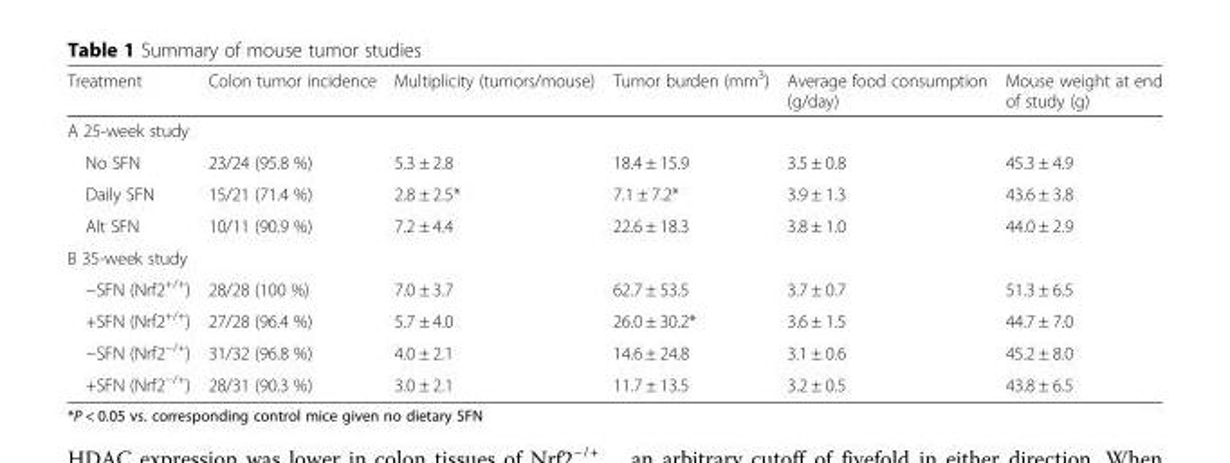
<table><thead><tr><td>Treatment</td><td>Colon tumor incidence</td><td>Multiplicity (tumors/mouse)</td><td>Tumor burden (mm<sup>3</sup>)</td><td>Average food consumption (g/day)</td><td>Mouse weight at end of study (g)</td></tr></thead><tbody><tr><td colspan="6">A 25-week study</td></tr><tr><td>No SFN</td><td>23/24 (95.8 %)</td><td>5.3 ± 2.8</td><td>18.4 ± 15.9</td><td>3.5 ± 0.8</td><td>45.3 ± 4.9</td></tr><tr><td>Daily SFN</td><td>15/21 (71.4 %)</td><td>2.8 ± 2.5*</td><td>7.1 ± 7.2*</td><td>3.9 ± 1.3</td><td>43.6 ± 3.8</td></tr><tr><td>Alt SFN</td><td>10/11 (90.9 %)</td><td>7.2 ± 4.4</td><td>22.6 ± 18.3</td><td>3.8 ± 1.0</td><td>44.0 ± 2.9</td></tr><tr><td colspan="6">B 35-week study</td></tr><tr><td>−SFN (Nrf2<sup>+/+</sup>)</td><td>28/28 (100 %)</td><td>7.0 ± 3.7</td><td>62.7 ± 53.5</td><td>3.7 ± 0.7</td><td>51.3 ± 6.5</td></tr><tr><td>+SFN (Nrf2<sup>+/+</sup>)</td><td>27/28 (96.4 %)</td><td>5.7 ± 4.0</td><td>26.0 ± 30.2*</td><td>3.6 ± 1.5</td><td>44.7 ± 7.0</td></tr><tr><td>−SFN (Nrf2<sup>−/+</sup>)</td><td>31/32 (96.8 %)</td><td>4.0 ± 2.1</td><td>14.6 ± 24.8</td><td>3.1 ± 0.6</td><td>45.2 ± 8.0</td></tr><tr><td>+SFN (Nrf2<sup>−/+</sup>)</td><td>28/31 (90.3 %)</td><td>3.0 ± 2.1</td><td>11.7 ± 13.5</td><td>3.2 ± 0.5</td><td>43.8 ± 6.5</td></tr></tbody></table>